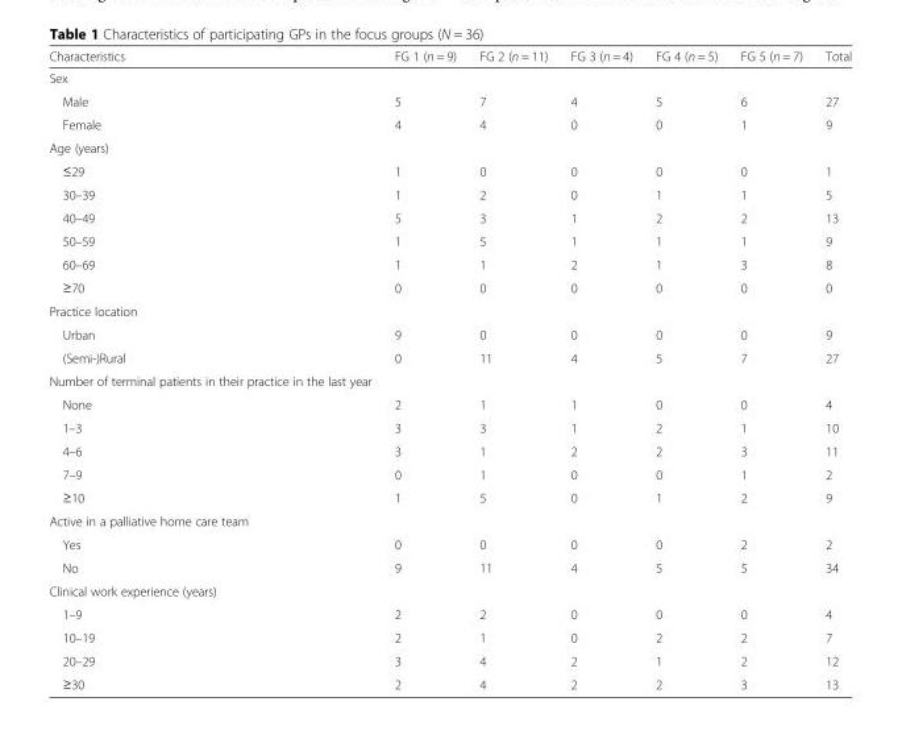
<table><thead><tr><td>Characteristics</td><td>FG 1 (n = 9)</td><td>FG 2 (n = 11)</td><td>FG 3 (n = 4)</td><td>FG 4 (n = 5)</td><td>FG 5 (n = 7)</td><td>Total</td></tr></thead><tbody><tr><td colspan="7">Sex</td></tr><tr><td>Male</td><td>5</td><td>7</td><td>4</td><td>5</td><td>6</td><td>27</td></tr><tr><td>Female</td><td>4</td><td>4</td><td>0</td><td>0</td><td>1</td><td>9</td></tr><tr><td colspan="7">Age (years)</td></tr><tr><td>≤29</td><td>1</td><td>0</td><td>0</td><td>0</td><td>0</td><td>1</td></tr><tr><td>30–39</td><td>1</td><td>2</td><td>0</td><td>1</td><td>1</td><td>5</td></tr><tr><td>40–49</td><td>5</td><td>3</td><td>1</td><td>2</td><td>2</td><td>13</td></tr><tr><td>50–59</td><td>1</td><td>5</td><td>1</td><td>1</td><td>1</td><td>9</td></tr><tr><td>60–69</td><td>1</td><td>1</td><td>2</td><td>1</td><td>3</td><td>8</td></tr><tr><td>≥70</td><td>0</td><td>0</td><td>0</td><td>0</td><td>0</td><td>0</td></tr><tr><td colspan="7">Practice location</td></tr><tr><td>Urban</td><td>9</td><td>0</td><td>0</td><td>0</td><td>0</td><td>9</td></tr><tr><td>(Semi-)Rural</td><td>0</td><td>11</td><td>4</td><td>5</td><td>7</td><td>27</td></tr><tr><td colspan="7">Number of terminal patients in their practice in the last year</td></tr><tr><td>None</td><td>2</td><td>1</td><td>1</td><td>0</td><td>0</td><td>4</td></tr><tr><td>1–3</td><td>3</td><td>3</td><td>1</td><td>2</td><td>1</td><td>10</td></tr><tr><td>4–6</td><td>3</td><td>1</td><td>2</td><td>2</td><td>3</td><td>11</td></tr><tr><td>7–9</td><td>0</td><td>1</td><td>0</td><td>0</td><td>1</td><td>2</td></tr><tr><td>≥10</td><td>1</td><td>5</td><td>0</td><td>1</td><td>2</td><td>9</td></tr><tr><td colspan="7">Active in a palliative home care team</td></tr><tr><td>Yes</td><td>0</td><td>0</td><td>0</td><td>0</td><td>2</td><td>2</td></tr><tr><td>No</td><td>9</td><td>11</td><td>4</td><td>5</td><td>5</td><td>34</td></tr><tr><td colspan="7">Clinical work experience (years)</td></tr><tr><td>1–9</td><td>2</td><td>2</td><td>0</td><td>0</td><td>0</td><td>4</td></tr><tr><td>10–19</td><td>2</td><td>1</td><td>0</td><td>2</td><td>2</td><td>7</td></tr><tr><td>20–29</td><td>3</td><td>4</td><td>2</td><td>1</td><td>2</td><td>12</td></tr><tr><td>≥30</td><td>2</td><td>4</td><td>2</td><td>2</td><td>3</td><td>13</td></tr></tbody></table>